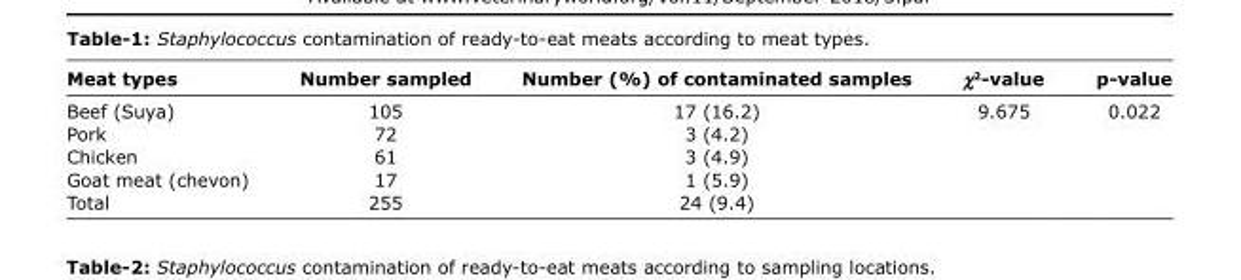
<table><thead><tr><td>Meat types</td><td>Number sampled</td><td>Number (%) of contaminated samples</td><td>χ<sup>2</sup>-value</td><td>p-value</td></tr></thead><tbody><tr><td>Beef (Suya)</td><td>105</td><td>17 (16.2)</td><td>9.675</td><td>0.022</td></tr><tr><td>Pork</td><td>72</td><td>3 (4.2)</td><td></td><td></td></tr><tr><td>Chicken</td><td>61</td><td>3 (4.9)</td><td></td><td></td></tr><tr><td>Goat meat (chevon)</td><td>17</td><td>1 (5.9)</td><td></td><td></td></tr><tr><td>Total</td><td>255</td><td>24 (9.4)</td><td></td><td></td></tr></tbody></table>